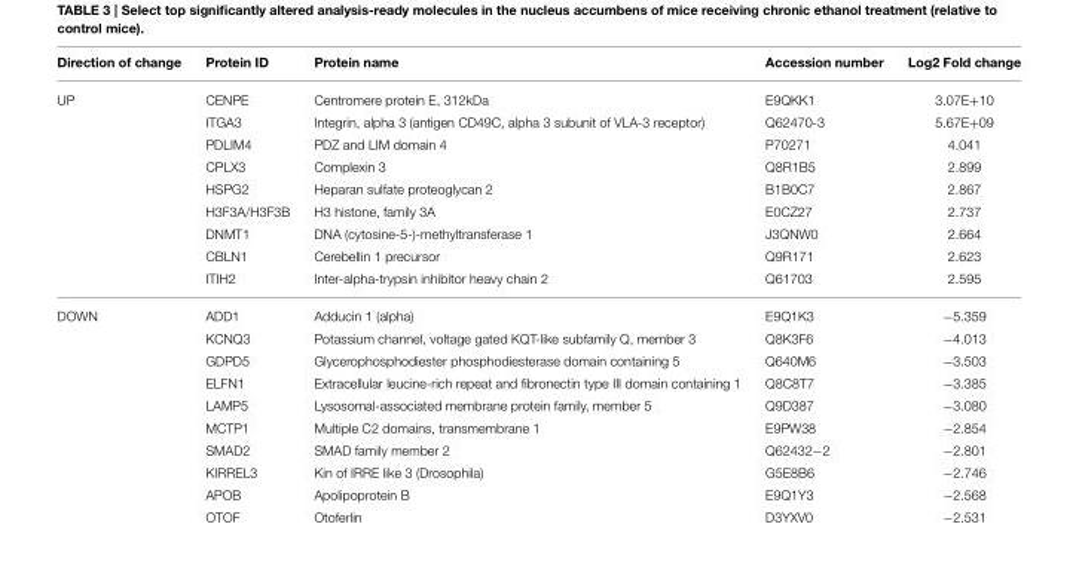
<table><thead><tr><td>Direction of change</td><td>Protein ID</td><td>Protein name</td><td>Accession number</td><td>Log2 Fold change</td></tr></thead><tbody><tr><td rowspan="9">UP</td><td>CENPE</td><td>Centromere protein E, 312kDa</td><td>E9QKK1</td><td>3.07E+10</td></tr><tr><td>ITGA3</td><td>Integrin, alpha 3 (antigen CD49C, alpha 3 subunit of VLA-3 receptor)</td><td>Q62470-3</td><td>5.67E+09</td></tr><tr><td>PDLIM4</td><td>PDZ and LIM domain 4</td><td>P70271</td><td>4.041</td></tr><tr><td>CPLX3</td><td>Complexin 3</td><td>Q8R1B5</td><td>2.899</td></tr><tr><td>HSPG2</td><td>Heparan sulfate proteoglycan 2</td><td>B1B0C7</td><td>2.867</td></tr><tr><td>H3F3A/H3F3B</td><td>H3 histone, family 3A</td><td>E0CZ27</td><td>2.737</td></tr><tr><td>DNMT1</td><td>DNA (cytosine-5-)-methyltransferase 1</td><td>J3QNW0</td><td>2.664</td></tr><tr><td>CBLN1</td><td>Cerebellin 1 precursor</td><td>Q9R171</td><td>2.623</td></tr><tr><td>ITIH2</td><td>Inter-alpha-trypsin inhibitor heavy chain 2</td><td>Q61703</td><td>2.595</td></tr><tr><td rowspan="10">DOWN</td><td>ADD1</td><td>Adducin 1 (alpha)</td><td>E9Q1K3</td><td>−5.359</td></tr><tr><td>KCNQ3</td><td>Potassium channel, voltage gated KQT-like subfamily Q, member 3</td><td>Q8K3F6</td><td>−4.013</td></tr><tr><td>GDPD5</td><td>Glycerophosphodiester phosphodiesterase domain containing 5</td><td>Q640M6</td><td>−3.503</td></tr><tr><td>ELFN1</td><td>Extracellular leucine-rich repeat and fibronectin type III domain containing 1</td><td>Q8C8T7</td><td>−3.385</td></tr><tr><td>LAMP5</td><td>Lysosomal-associated membrane protein family, member 5</td><td>Q9D387</td><td>−3.080</td></tr><tr><td>MCTP1</td><td>Multiple C2 domains, transmembrane 1</td><td>E9PW38</td><td>−2.854</td></tr><tr><td>SMAD2</td><td>SMAD family member 2</td><td>Q62432−2</td><td>−2.801</td></tr><tr><td>KIRREL3</td><td>Kin of IRRE like 3 (Drosophila)</td><td>G5E8B6</td><td>−2.746</td></tr><tr><td>APOB</td><td>Apolipoprotein B</td><td>E9Q1Y3</td><td>−2.568</td></tr><tr><td>OTOF</td><td>Otoferlin</td><td>D3YXV0</td><td>−2.531</td></tr></tbody></table>